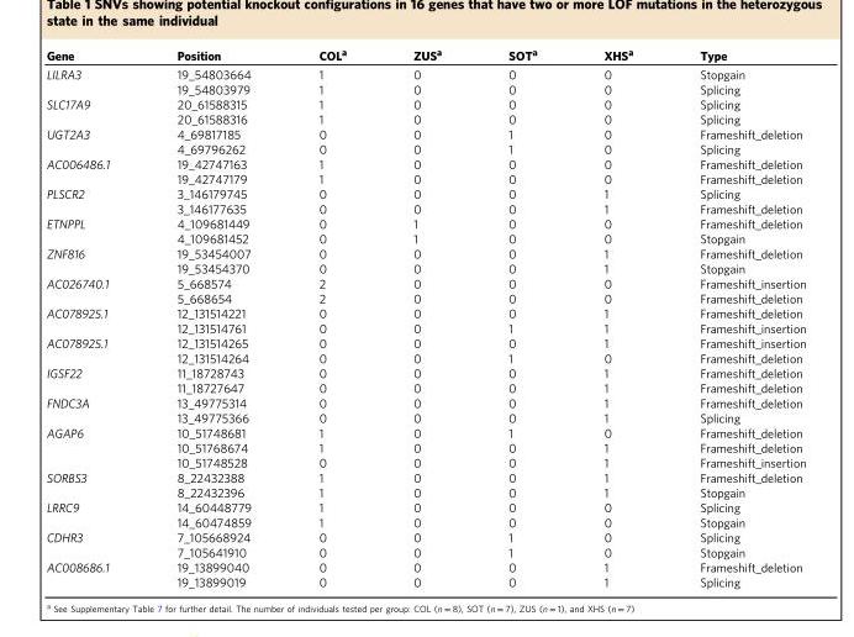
<table><thead><tr><td>Gene</td><td>Position</td><td>COL<sup>a</sup></td><td>ZUS<sup>a</sup></td><td>SOT<sup>a</sup></td><td>XHS<sup>a</sup></td><td>Type</td></tr></thead><tbody><tr><td rowspan="2">LILRA3</td><td>19_54803664</td><td>1</td><td>0</td><td>0</td><td>0</td><td>Stopgain</td></tr><tr><td>19_54803979</td><td>1</td><td>0</td><td>0</td><td>0</td><td>Splicing</td></tr><tr><td rowspan="2">SLC17A9</td><td>20_61588315</td><td>1</td><td>0</td><td>0</td><td>0</td><td>Splicing</td></tr><tr><td>20_61588316</td><td>1</td><td>0</td><td>0</td><td>0</td><td>Splicing</td></tr><tr><td rowspan="2">UGT2A3</td><td>4_69817185</td><td>0</td><td>0</td><td>1</td><td>0</td><td>Frameshift_deletion</td></tr><tr><td>4_69796262</td><td>0</td><td>0</td><td>1</td><td>0</td><td>Splicing</td></tr><tr><td rowspan="2">AC006486.1</td><td>19_42747163</td><td>1</td><td>0</td><td>0</td><td>0</td><td>Frameshift_deletion</td></tr><tr><td>19_42747179</td><td>1</td><td>0</td><td>0</td><td>0</td><td>Frameshift_deletion</td></tr><tr><td rowspan="2">PLSCR2</td><td>3_146179745</td><td>0</td><td>0</td><td>0</td><td>1</td><td>Splicing</td></tr><tr><td>3_146177635</td><td>0</td><td>0</td><td>0</td><td>1</td><td>Frameshift_deletion</td></tr><tr><td rowspan="2">ETNPPL</td><td>4_109681449</td><td>0</td><td>1</td><td>0</td><td>0</td><td>Frameshift_deletion</td></tr><tr><td>4_109681452</td><td>0</td><td>1</td><td>0</td><td>0</td><td>Stopgain</td></tr><tr><td rowspan="2">ZNF816</td><td>19_53454007</td><td>0</td><td>0</td><td>0</td><td>1</td><td>Frameshift_deletion</td></tr><tr><td>19_53454370</td><td>0</td><td>0</td><td>0</td><td>1</td><td>Stopgain</td></tr><tr><td rowspan="2">AC026740.1</td><td>5_668574</td><td>2</td><td>0</td><td>0</td><td>0</td><td>Frameshift_insertion</td></tr><tr><td>5_668654</td><td>2</td><td>0</td><td>0</td><td>0</td><td>Frameshift_deletion</td></tr><tr><td rowspan="2">AC078925.1</td><td>12_131514221</td><td>0</td><td>0</td><td>0</td><td>1</td><td>Frameshift_deletion</td></tr><tr><td>12_131514761</td><td>0</td><td>0</td><td>1</td><td>1</td><td>Frameshift_insertion</td></tr><tr><td rowspan="2">AC078925.1</td><td>12_131514265</td><td>0</td><td>0</td><td>0</td><td>1</td><td>Frameshift_insertion</td></tr><tr><td>12_131514264</td><td>0</td><td>0</td><td>1</td><td>0</td><td>Frameshift_deletion</td></tr><tr><td rowspan="2">IGSF22</td><td>11_18728743</td><td>0</td><td>0</td><td>0</td><td>1</td><td>Frameshift_deletion</td></tr><tr><td>11_18727647</td><td>0</td><td>0</td><td>0</td><td>1</td><td>Frameshift_deletion</td></tr><tr><td rowspan="2">FNDC3A</td><td>13_49775314</td><td>0</td><td>0</td><td>0</td><td>1</td><td>Frameshift_deletion</td></tr><tr><td>13_49775366</td><td>0</td><td>0</td><td>0</td><td>1</td><td>Splicing</td></tr><tr><td rowspan="3">AGAP6</td><td>10_51748681</td><td>1</td><td>0</td><td>1</td><td>0</td><td>Frameshift_deletion</td></tr><tr><td>10_51768674</td><td>1</td><td>0</td><td>0</td><td>1</td><td>Frameshift_deletion</td></tr><tr><td>10_51748528</td><td>0</td><td>0</td><td>0</td><td>1</td><td>Frameshift_insertion</td></tr><tr><td rowspan="2">SORBS3</td><td>8_22432388</td><td>1</td><td>0</td><td>0</td><td>1</td><td>Frameshift_deletion</td></tr><tr><td>8_22432396</td><td>1</td><td>0</td><td>0</td><td>1</td><td>Stopgain</td></tr><tr><td rowspan="2">LRRC9</td><td>14_60448779</td><td>1</td><td>0</td><td>0</td><td>0</td><td>Splicing</td></tr><tr><td>14_60474859</td><td>1</td><td>0</td><td>0</td><td>0</td><td>Stopgain</td></tr><tr><td rowspan="2">CDHR3</td><td>7_105668924</td><td>0</td><td>0</td><td>1</td><td>0</td><td>Splicing</td></tr><tr><td>7_105641910</td><td>0</td><td>0</td><td>1</td><td>0</td><td>Stopgain</td></tr><tr><td rowspan="2">AC008686.1</td><td>19_13899040</td><td>0</td><td>0</td><td>0</td><td>1</td><td>Frameshift_deletion</td></tr><tr><td>19_13899019</td><td>0</td><td>0</td><td>0</td><td>1</td><td>Splicing</td></tr></tbody></table>